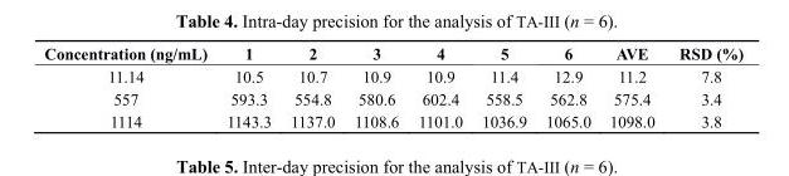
<table><thead><tr><td>Concentration (ng/mL)</td><td>1</td><td>2</td><td>3</td><td>4</td><td>5</td><td>6</td><td>AVE</td><td>RSD (%)</td></tr></thead><tbody><tr><td>11.14</td><td>10.5</td><td>10.7</td><td>10.9</td><td>10.9</td><td>11.4</td><td>12.9</td><td>11.2</td><td>7.8</td></tr><tr><td>557</td><td>593.3</td><td>554.8</td><td>580.6</td><td>602.4</td><td>558.5</td><td>562.8</td><td>575.4</td><td>3.4</td></tr><tr><td>1114</td><td>1143.3</td><td>1137.0</td><td>1108.6</td><td>1101.0</td><td>1036.9</td><td>1065.0</td><td>1098.0</td><td>3.8</td></tr></tbody></table>